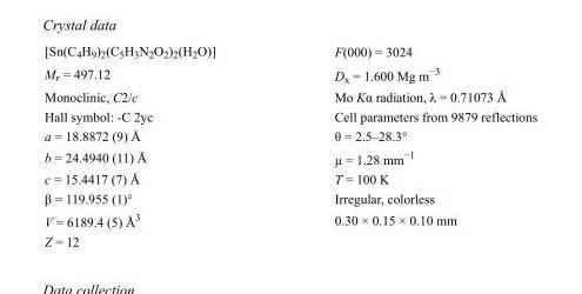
<table><tbody><tr><td>[Sn(C<sub>4</sub>H<sub>9</sub>)<sub>2</sub>(C<sub>5</sub>H<sub>3</sub>N<sub>2</sub>O<sub>2</sub>)<sub>2</sub>(H<sub>2</sub>O)]</td><td>F(000) = 3024</td></tr><tr><td>M<sub>r</sub> = 497.12</td><td>D<sub>x</sub> = 1.600 Mg m<sup>−3</sup></td></tr><tr><td>Monoclinic, C2/c</td><td>Mo Kα radiation, λ = 0.71073 Å</td></tr><tr><td>Hall symbol: -C 2yc</td><td>Cell parameters from 9879 reflections</td></tr><tr><td>a = 18.8872 (9) Å</td><td>θ = 2.5–28.3°</td></tr><tr><td>b = 24.4940 (11) Å</td><td>µ = 1.28 mm<sup>−1</sup></td></tr><tr><td>c = 15.4417 (7) Å</td><td>T = 100 K</td></tr><tr><td>β = 119.955 (1)°</td><td>Irregular, colorless</td></tr><tr><td>V = 6189.4 (5) Å<sup>3</sup></td><td>0.30 × 0.15 × 0.10 mm</td></tr><tr><td>Z = 12</td><td></td></tr></tbody></table>